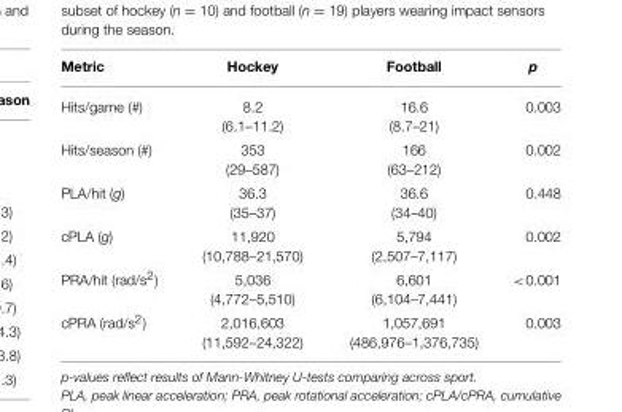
<table><thead><tr><td>Metric</td><td>Hockey</td><td>Football</td><td>p</td></tr></thead><tbody><tr><td>Hits/game (#)</td><td>8.2 (6.1–11.2)</td><td>16.6 (8.7–21)</td><td>0.003</td></tr><tr><td>Hits/season (#)</td><td>353 (29–587)</td><td>166 (63–212)</td><td>0.002</td></tr><tr><td>PLA/hit (g)</td><td>36.3 (35–37)</td><td>36.6 (34–40)</td><td>0.448</td></tr><tr><td>cPLA (g)</td><td>11,920 (10,788–21,570)</td><td>5,794 (2,507–7,117)</td><td>0.002</td></tr><tr><td>PRA/hit (rad/s<sup>2</sup>)</td><td>5,036 (4,772–5,510)</td><td>6,601 (6,104–7,441)</td><td>&lt;0.001</td></tr><tr><td>cPRA (rad/s<sup>2</sup>)</td><td>2,016,603 (11,592–24,322)</td><td>1,057,691 (486,976–1,376,735)</td><td>0.003</td></tr></tbody></table>